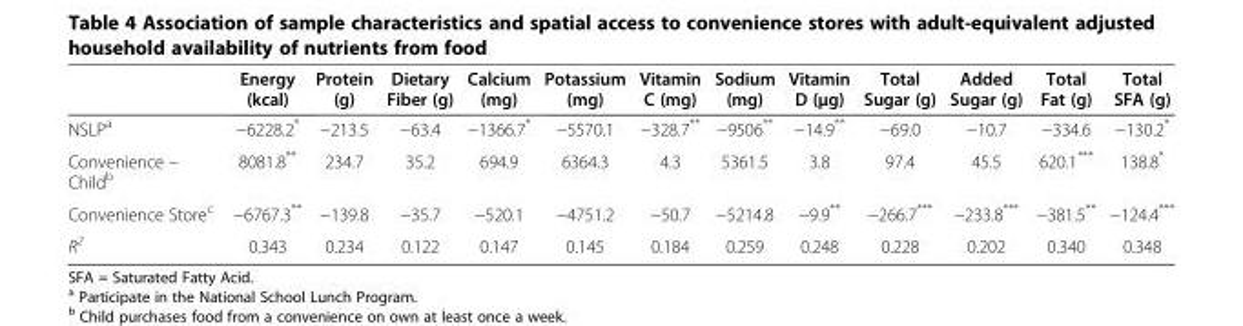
<table><thead><tr><td></td><td>Energy (kcal)</td><td>Protein (g)</td><td>Dietary Fiber (g)</td><td>Calcium (mg)</td><td>Potassium (mg)</td><td>Vitamin C (mg)</td><td>Sodium (mg)</td><td>Vitamin D (μg)</td><td>Total Sugar (g)</td><td>Added Sugar (g)</td><td>Total Fat (g)</td><td>Total SFA (g)</td></tr></thead><tbody><tr><td>NSLP<sup>a</sup></td><td>−6228.2*</td><td>−213.5</td><td>−63.4</td><td>−1366.7*</td><td>−5570.1</td><td>−328.7**</td><td>−9506**</td><td>−14.9**</td><td>−69.0</td><td>−10.7</td><td>−334.6</td><td>−130.2*</td></tr><tr><td>Convenience – Child<sup>b</sup></td><td>8081.8**</td><td>234.7</td><td>35.2</td><td>694.9</td><td>6364.3</td><td>4.3</td><td>5361.5</td><td>3.8</td><td>97.4</td><td>45.5</td><td>620.1***</td><td>138.8*</td></tr><tr><td>Convenience Store<sup>c</sup></td><td>−6767.3**</td><td>−139.8</td><td>−35.7</td><td>−520.1</td><td>−4751.2</td><td>−50.7</td><td>−5214.8</td><td>−9.9**</td><td>−266.7***</td><td>−233.8***</td><td>−381.5**</td><td>−124.4***</td></tr><tr><td>R<sup>2</sup></td><td>0.343</td><td>0.234</td><td>0.122</td><td>0.147</td><td>0.145</td><td>0.184</td><td>0.259</td><td>0.248</td><td>0.228</td><td>0.202</td><td>0.340</td><td>0.348</td></tr></tbody></table>